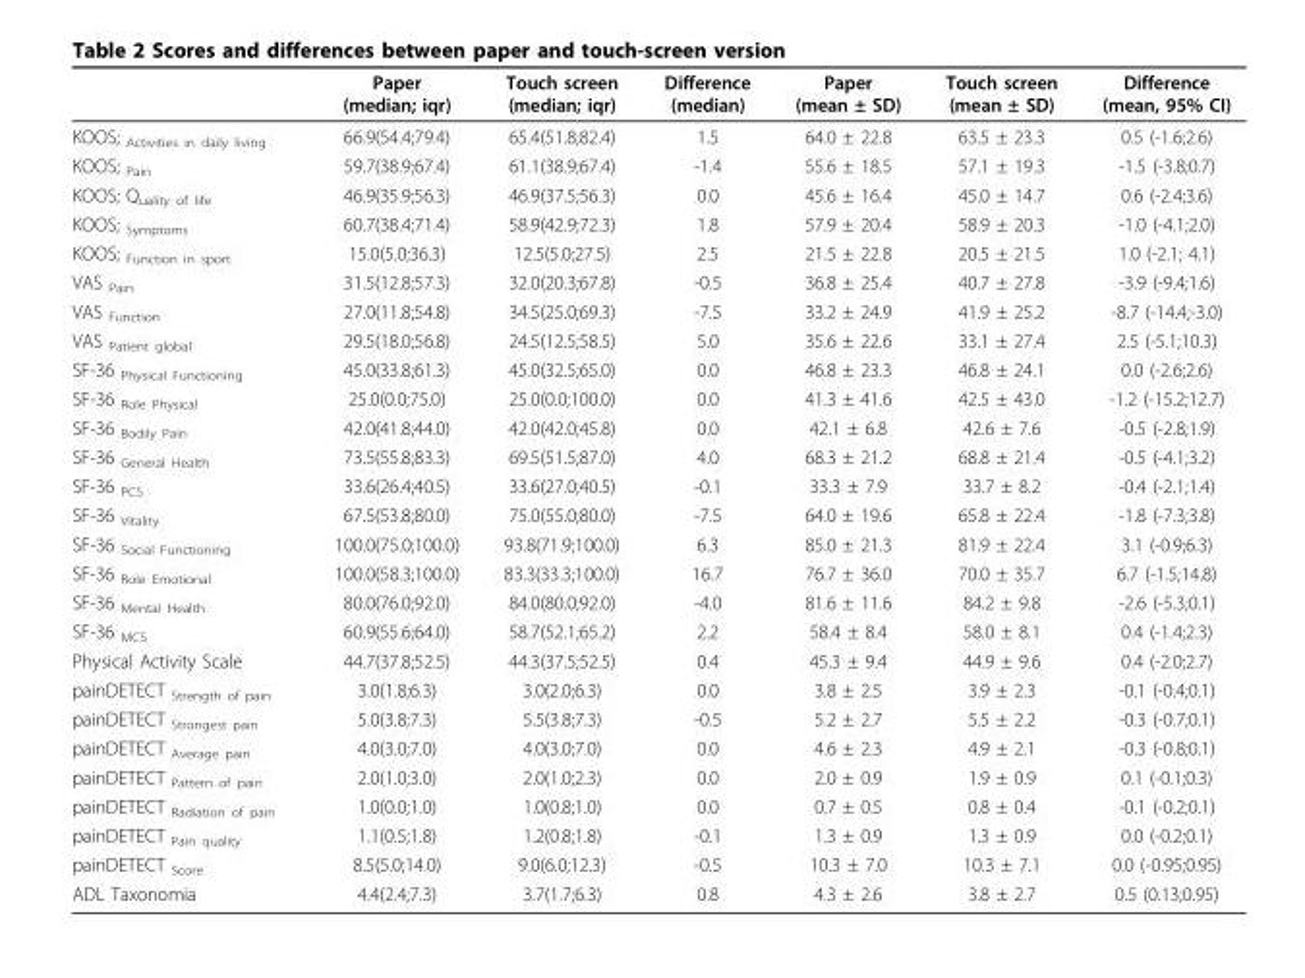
<table><thead><tr><td></td><td>Paper (median; iqr)</td><td>Touch screen (median; iqr)</td><td>Difference (median)</td><td>Paper (mean ± SD)</td><td>Touch screen (mean ± SD)</td><td>Difference (mean, 95% CI)</td></tr></thead><tbody><tr><td>KOOS; <sub>Activities in daily living</sub></td><td>66.9(54.4;79.4)</td><td>65.4(51.8;82.4)</td><td>1.5</td><td>64.0 ± 22.8</td><td>63.5 ± 23.3</td><td>0.5 (-1.6;2.6)</td></tr><tr><td>KOOS; <sub>Pain</sub></td><td>59.7(38.9;67.4)</td><td>61.1(38.9;67.4)</td><td>-1.4</td><td>55.6 ± 18.5</td><td>57.1 ± 19.3</td><td>-1.5 (-3.8;0.7)</td></tr><tr><td>KOOS; Q<sub>uality of life</sub></td><td>46.9(35.9;56.3)</td><td>46.9(37.5;56.3)</td><td>0.0</td><td>45.6 ± 16.4</td><td>45.0 ± 14.7</td><td>0.6 (-2.4;3.6)</td></tr><tr><td>KOOS; <sub>Symptoms</sub></td><td>60.7(38.4;71.4)</td><td>58.9(42.9;72.3)</td><td>1.8</td><td>57.9 ± 20.4</td><td>58.9 ± 20.3</td><td>-1.0 (-4.1;2.0)</td></tr><tr><td>KOOS; <sub>Function in sport</sub></td><td>15.0(5.0;36.3)</td><td>12.5(5.0;27.5)</td><td>2.5</td><td>21.5 ± 22.8</td><td>20.5 ± 21.5</td><td>1.0 (-2.1; 4.1)</td></tr><tr><td>VAS <sub>Pain</sub></td><td>31.5(12.8;57.3)</td><td>32.0(20.3;67.8)</td><td>-0.5</td><td>36.8 ± 25.4</td><td>40.7 ± 27.8</td><td>-3.9 (-9.4;1.6)</td></tr><tr><td>VAS <sub>Function</sub></td><td>27.0(11.8;54.8)</td><td>34.5(25.0;69.3)</td><td>-7.5</td><td>33.2 ± 24.9</td><td>41.9 ± 25.2</td><td>-8.7 (-14.4;-3.0)</td></tr><tr><td>VAS <sub>Patient global</sub></td><td>29.5(18.0;56.8)</td><td>24.5(12.5;58.5)</td><td>5.0</td><td>35.6 ± 22.6</td><td>33.1 ± 27.4</td><td>2.5 (-5.1;10.3)</td></tr><tr><td>SF-36 <sub>Physical Functioning</sub></td><td>45.0(33.8;61.3)</td><td>45.0(32.5;65.0)</td><td>0.0</td><td>46.8 ± 23.3</td><td>46.8 ± 24.1</td><td>0.0 (-2.6;2.6)</td></tr><tr><td>SF-36 <sub>Role Physical</sub></td><td>25.0(0.0;75.0)</td><td>25.0(0.0;100.0)</td><td>0.0</td><td>41.3 ± 41.6</td><td>42.5 ± 43.0</td><td>-1.2 (-15.2;12.7)</td></tr><tr><td>SF-36 <sub>Bodily Pain</sub></td><td>42.0(41.8;44.0)</td><td>42.0(42.0;45.8)</td><td>0.0</td><td>42.1 ± 6.8</td><td>42.6 ± 7.6</td><td>-0.5 (-2.8;1.9)</td></tr><tr><td>SF-36 <sub>General Health</sub></td><td>73.5(55.8;83.3)</td><td>69.5(51.5;87.0)</td><td>4.0</td><td>68.3 ± 21.2</td><td>68.8 ± 21.4</td><td>-0.5 (-4.1;3.2)</td></tr><tr><td>SF-36 <sub>PCS</sub></td><td>33.6(26.4;40.5)</td><td>33.6(27.0;40.5)</td><td>-0.1</td><td>33.3 ± 7.9</td><td>33.7 ± 8.2</td><td>-0.4 (-2.1;1.4)</td></tr><tr><td>SF-36 <sub>Vitality</sub></td><td>67.5(53.8;80.0)</td><td>75.0(55.0;80.0)</td><td>-7.5</td><td>64.0 ± 19.6</td><td>65.8 ± 22.4</td><td>-1.8 (-7.3;3.8)</td></tr><tr><td>SF-36 <sub>Social Functioning</sub></td><td>100.0(75.0;100.0)</td><td>93.8(71.9;100.0)</td><td>6.3</td><td>85.0 ± 21.3</td><td>81.9 ± 22.4</td><td>3.1 (-0.9;6.3)</td></tr><tr><td>SF-36 <sub>Role Emotional</sub></td><td>100.0(58.3;100.0)</td><td>83.3(33.3;100.0)</td><td>16.7</td><td>76.7 ± 36.0</td><td>70.0 ± 35.7</td><td>6.7 (-1.5;14.8)</td></tr><tr><td>SF-36 <sub>Mental Health</sub></td><td>80.0(76.0;92.0)</td><td>84.0(80.0;92.0)</td><td>-4.0</td><td>81.6 ± 11.6</td><td>84.2 ± 9.8</td><td>-2.6 (-5.3;0.1)</td></tr><tr><td>SF-36 <sub>MCS</sub></td><td>60.9(55.6;64.0)</td><td>58.7(52.1;65.2)</td><td>2.2</td><td>58.4 ± 8.4</td><td>58.0 ± 8.1</td><td>0.4 (-1.4;2.3)</td></tr><tr><td>Physical Activity Scale</td><td>44.7(37.8;52.5)</td><td>44.3(37.5;52.5)</td><td>0.4</td><td>45.3 ± 9.4</td><td>44.9 ± 9.6</td><td>0.4 (-2.0;2.7)</td></tr><tr><td>painDETECT <sub>Strength of pain</sub></td><td>3.0(1.8;6.3)</td><td>3.0(2.0;6.3)</td><td>0.0</td><td>3.8 ± 2.5</td><td>3.9 ± 2.3</td><td>-0.1 (-0.4;0.1)</td></tr><tr><td>painDETECT <sub>Strongest pain</sub></td><td>5.0(3.8;7.3)</td><td>5.5(3.8;7.3)</td><td>-0.5</td><td>5.2 ± 2.7</td><td>5.5 ± 2.2</td><td>-0.3 (-0.7;0.1)</td></tr><tr><td>painDETECT <sub>Average pain</sub></td><td>4.0(3.0;7.0)</td><td>4.0(3.0;7.0)</td><td>0.0</td><td>4.6 ± 2.3</td><td>4.9 ± 2.1</td><td>-0.3 (-0.8;0.1)</td></tr><tr><td>painDETECT <sub>Pattern of pain</sub></td><td>2.0(1.0;3.0)</td><td>2.0(1.0;2.3)</td><td>0.0</td><td>2.0 ± 0.9</td><td>1.9 ± 0.9</td><td>0.1 (-0.1;0.3)</td></tr><tr><td>painDETECT <sub>Radiation of pain</sub></td><td>1.0(0.0;1.0)</td><td>1.0(0.8;1.0)</td><td>0.0</td><td>0.7 ± 0.5</td><td>0.8 ± 0.4</td><td>-0.1 (-0.2;0.1)</td></tr><tr><td>painDETECT <sub>Pain quality</sub></td><td>1.1(0.5;1.8)</td><td>1.2(0.8;1.8)</td><td>-0.1</td><td>1.3 ± 0.9</td><td>1.3 ± 0.9</td><td>0.0 (-0.2;0.1)</td></tr><tr><td>painDETECT <sub>Score</sub></td><td>8.5(5.0;14.0)</td><td>9.0(6.0;12.3)</td><td>-0.5</td><td>10.3 ± 7.0</td><td>10.3 ± 7.1</td><td>0.0 (-0.95;0.95)</td></tr><tr><td>ADL Taxonomia</td><td>4.4(2.4;7.3)</td><td>3.7(1.7;6.3)</td><td>0.8</td><td>4.3 ± 2.6</td><td>3.8 ± 2.7</td><td>0.5 (0.13;0.95)</td></tr></tbody></table>